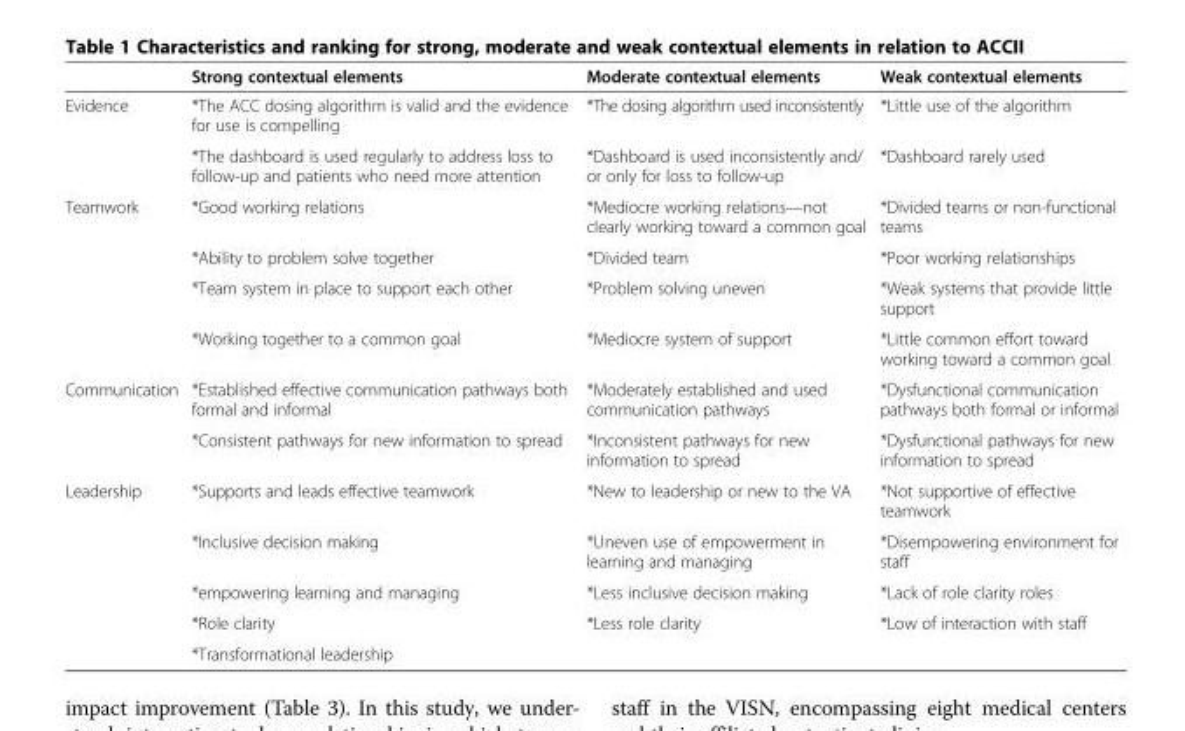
<table><thead><tr><td></td><td>Strong contextual elements</td><td>Moderate contextual elements</td><td>Weak contextual elements</td></tr></thead><tbody><tr><td rowspan="2">Evidence</td><td>*The ACC dosing algorithm is valid and the evidence for use is compelling</td><td>*The dosing algorithm used inconsistently</td><td>*Little use of the algorithm</td></tr><tr><td>*The dashboard is used regularly to address loss to follow-up and patients who need more attention</td><td>*Dashboard is used inconsistently and/ or only for loss to follow-up</td><td>*Dashboard rarely used</td></tr><tr><td rowspan="4">Teamwork</td><td>*Good working relations</td><td>*Mediocre working relations—not clearly working toward a common goal</td><td>*Divided teams or non-functional teams</td></tr><tr><td>*Ability to problem solve together</td><td>*Divided team</td><td>*Poor working relationships</td></tr><tr><td>*Team system in place to support each other</td><td>*Problem solving uneven</td><td>*Weak systems that provide little support</td></tr><tr><td>*Working together to a common goal</td><td>*Mediocre system of support</td><td>*Little common effort toward working toward a common goal</td></tr><tr><td rowspan="2">Communication</td><td>*Established effective communication pathways both formal and informal</td><td>*Moderately established and used communication pathways</td><td>*Dysfunctional communication pathways both formal or informal</td></tr><tr><td>*Consistent pathways for new information to spread</td><td>*Inconsistent pathways for new information to spread</td><td>*Dysfunctional pathways for new information to spread</td></tr><tr><td rowspan="5">Leadership</td><td>*Supports and leads effective teamwork</td><td>*New to leadership or new to the VA</td><td>*Not supportive of effective teamwork</td></tr><tr><td>*Inclusive decision making</td><td>*Uneven use of empowerment in learning and managing</td><td>*Disempowering environment for staff</td></tr><tr><td>*empowering learning and managing</td><td>*Less inclusive decision making</td><td>*Lack of role clarity roles</td></tr><tr><td>*Role clarity</td><td rowspan="2">*Less role clarity</td><td rowspan="2">*Low of interaction with staff</td></tr><tr><td>*Transformational leadership</td></tr></tbody></table>